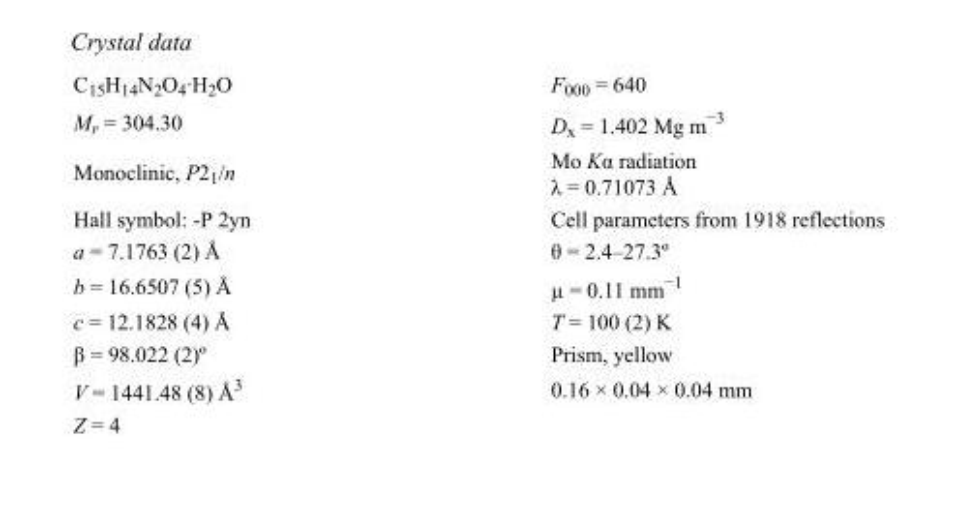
<table><tbody><tr><td>C<sub>15</sub>H<sub>14</sub>N<sub>2</sub>O<sub>4</sub>·H<sub>2</sub>O</td><td>F000 = 640</td></tr><tr><td>M<sub>r</sub> = 304.30</td><td>D<sub>x</sub> = 1.402 Mg m<sup>−3</sup></td></tr><tr><td>Monoclinic, P2<sub>1</sub>/n</td><td>Mo Kα radiation λ = 0.71073 Å</td></tr><tr><td>Hall symbol: -P 2yn</td><td>Cell parameters from 1918 reflections</td></tr><tr><td>a = 7.1763 (2) Å</td><td>θ = 2.4–27.3º</td></tr><tr><td>b = 16.6507 (5) Å</td><td>µ = 0.11 mm<sup>−1</sup></td></tr><tr><td>c = 12.1828 (4) Å</td><td>T = 100 (2) K</td></tr><tr><td>β = 98.022 (2)º</td><td>Prism, yellow</td></tr><tr><td>V = 1441.48 (8) Å<sup>3</sup></td><td>0.16 × 0.04 × 0.04 mm</td></tr><tr><td>Z = 4</td><td></td></tr></tbody></table>